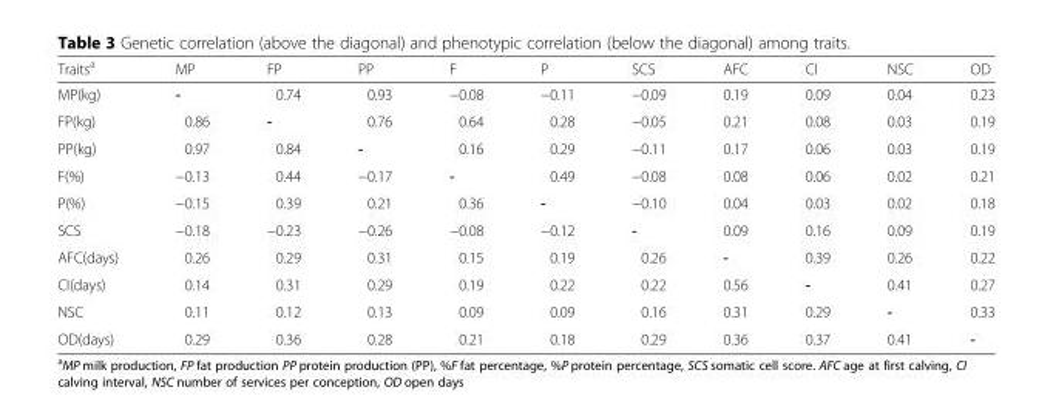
<table><thead><tr><td>Traits<sup>a</sup></td><td>MP</td><td>FP</td><td>PP</td><td>F</td><td>P</td><td>SCS</td><td>AFC</td><td>CI</td><td>NSC</td><td>OD</td></tr></thead><tbody><tr><td>MP(kg)</td><td>-</td><td>0.74</td><td>0.93</td><td>−0.08</td><td>−0.11</td><td>−0.09</td><td>0.19</td><td>0.09</td><td>0.04</td><td>0.23</td></tr><tr><td>FP(kg)</td><td>0.86</td><td>-</td><td>0.76</td><td>0.64</td><td>0.28</td><td>−0.05</td><td>0.21</td><td>0.08</td><td>0.03</td><td>0.19</td></tr><tr><td>PP(kg)</td><td>0.97</td><td>0.84</td><td>-</td><td>0.16</td><td>0.29</td><td>−0.11</td><td>0.17</td><td>0.06</td><td>0.03</td><td>0.19</td></tr><tr><td>F(%)</td><td>−0.13</td><td>0.44</td><td>−0.17</td><td>-</td><td>0.49</td><td>−0.08</td><td>0.08</td><td>0.06</td><td>0.02</td><td>0.21</td></tr><tr><td>P(%)</td><td>−0.15</td><td>0.39</td><td>0.21</td><td>0.36</td><td>-</td><td>−0.10</td><td>0.04</td><td>0.03</td><td>0.02</td><td>0.18</td></tr><tr><td>SCS</td><td>−0.18</td><td>−0.23</td><td>−0.26</td><td>−0.08</td><td>−0.12</td><td>-</td><td>0.09</td><td>0.16</td><td>0.09</td><td>0.19</td></tr><tr><td>AFC(days)</td><td>0.26</td><td>0.29</td><td>0.31</td><td>0.15</td><td>0.19</td><td>0.26</td><td>-</td><td>0.39</td><td>0.26</td><td>0.22</td></tr><tr><td>CI(days)</td><td>0.14</td><td>0.31</td><td>0.29</td><td>0.19</td><td>0.22</td><td>0.22</td><td>0.56</td><td>-</td><td>0.41</td><td>0.27</td></tr><tr><td>NSC</td><td>0.11</td><td>0.12</td><td>0.13</td><td>0.09</td><td>0.09</td><td>0.16</td><td>0.31</td><td>0.29</td><td>-</td><td>0.33</td></tr><tr><td>OD(days)</td><td>0.29</td><td>0.36</td><td>0.28</td><td>0.21</td><td>0.18</td><td>0.29</td><td>0.36</td><td>0.37</td><td>0.41</td><td>-</td></tr></tbody></table>